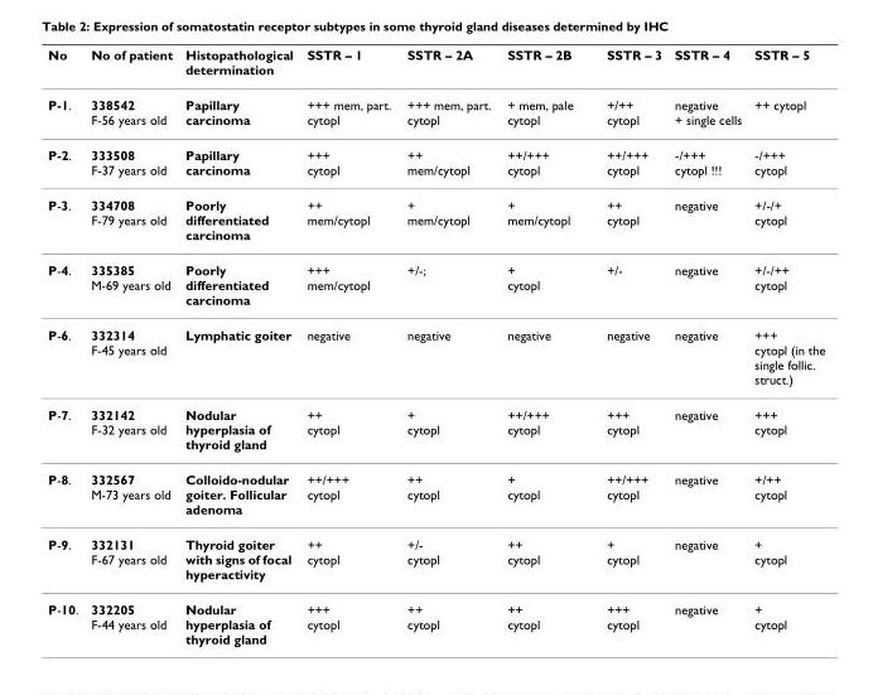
<table><thead><tr><td>No</td><td>No of patient</td><td>Histopathological determination</td><td>SSTR – 1</td><td>SSTR – 2A</td><td>SSTR – 2B</td><td>SSTR – 3</td><td>SSTR – 4</td><td>SSTR – 5</td></tr></thead><tbody><tr><td>P-1.</td><td>338542 F-56 years old</td><td>Papillary carcinoma</td><td>+++ mem, part. cytopl</td><td>+++ mem, part. cytopl</td><td>+ mem, pale cytopl</td><td>+/++ cytopl</td><td>negative + single cells</td><td>++ cytopl</td></tr><tr><td>P-2.</td><td>333508 F-37 years old</td><td>Papillary carcinoma</td><td>+++ cytopl</td><td>++ mem/cytopl</td><td>++/+++ cytopl</td><td>++/+++ cytopl</td><td>-/+++ cytopl !!!</td><td>-/+++ cytopl</td></tr><tr><td>P-3.</td><td>334708 F-79 years old</td><td>Poorly differentiated carcinoma</td><td>++ mem/cytopl</td><td>+ mem/cytopl</td><td>+ mem/cytopl</td><td>++ cytopl</td><td>negative</td><td>+/-/+ cytopl</td></tr><tr><td>P-4.</td><td>335385 M-69 years old</td><td>Poorly differentiated carcinoma</td><td>+++ mem/cytopl</td><td>+/-;</td><td>+ cytopl</td><td>+/-</td><td>negative</td><td>+/-/++ cytopl</td></tr><tr><td>P-6.</td><td>332314 F-45 years old</td><td>Lymphatic goiter</td><td>negative</td><td>negative</td><td>negative</td><td>negative</td><td>negative</td><td>+++ cytopl (in the single follic. struct.)</td></tr><tr><td>P-7.</td><td>332142 F-32 years old</td><td>Nodular hyperplasia of thyroid gland</td><td>++ cytopl</td><td>+ cytopl</td><td>++/+++ cytopl</td><td>+++ cytopl</td><td>negative</td><td>+++ cytopl</td></tr><tr><td>P-8.</td><td>332567 M-73 years old</td><td>Colloido-nodular goiter. Follicular adenoma</td><td>++/+++ cytopl</td><td>++ cytopl</td><td>+ cytopl</td><td>++/+++ cytopl</td><td>negative</td><td>+/++ cytopl</td></tr><tr><td>P-9.</td><td>332131 F-67 years old</td><td>Thyroid goiter with signs of focal hyperactivity</td><td>++ cytopl</td><td>+/- cytopl</td><td>++ cytopl</td><td>+ cytopl</td><td>negative</td><td>+ cytopl</td></tr><tr><td>P-10.</td><td>332205 F-44 years old</td><td>Nodular hyperplasia of thyroid gland</td><td>+++ cytopl</td><td>++ cytopl</td><td>++ cytopl</td><td>+++ cytopl</td><td>negative</td><td>+ cytopl</td></tr></tbody></table>